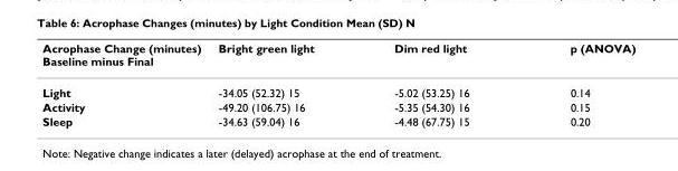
<table><thead><tr><td>Acrophase Change (minutes) Baseline minus Final</td><td>Bright green light</td><td>Dim red light</td><td>p (ANOVA)</td></tr></thead><tbody><tr><td>Light</td><td>-34.05 (52.32) 15</td><td>-5.02 (53.25) 16</td><td>0.14</td></tr><tr><td>Activity</td><td>-49.20 (106.75) 16</td><td>-5.35 (54.30) 16</td><td>0.15</td></tr><tr><td>Sleep</td><td>-34.63 (59.04) 16</td><td>-4.48 (67.75) 15</td><td>0.20</td></tr></tbody></table>